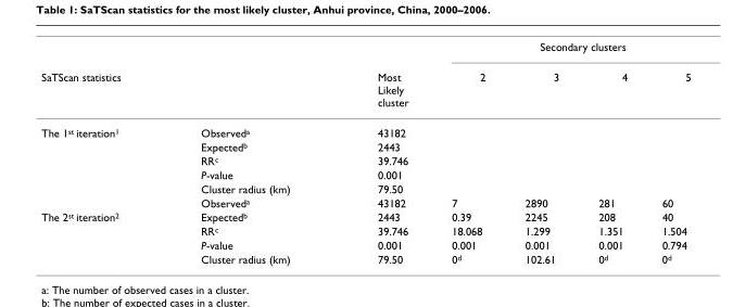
<table><thead><tr><td rowspan="2">SaTScan statistics</td><td rowspan="2"></td><td rowspan="2">Most Likely cluster</td><td colspan="4">Secondary clusters</td></tr><tr><td>2</td><td>3</td><td>4</td><td>5</td></tr></thead><tbody><tr><td rowspan="6">The 1<sup>st</sup> iteration<sup>1</sup></td><td>Observed<sup>a</sup></td><td>43182</td><td></td><td></td><td></td><td></td></tr><tr><td>Expected<sup>b</sup></td><td>2443</td><td></td><td></td><td></td><td></td></tr><tr><td>RR<sup>c</sup></td><td>39.746</td><td></td><td></td><td></td><td></td></tr><tr><td>P-value</td><td>0.001</td><td></td><td></td><td></td><td></td></tr><tr><td>Cluster radius (km)</td><td>79.50</td><td></td><td></td><td></td><td></td></tr><tr><td>Observed<sup>a</sup></td><td>43182</td><td>7</td><td>2890</td><td>281</td><td>60</td></tr><tr><td rowspan="4">The 2<sup>st</sup> iteration<sup>2</sup></td><td>Expected<sup>b</sup></td><td>2443</td><td>0.39</td><td>2245</td><td>208</td><td>40</td></tr><tr><td>RR<sup>c</sup></td><td>39.746</td><td>18.068</td><td>1.299</td><td>1.351</td><td>1.504</td></tr><tr><td>P-value</td><td>0.001</td><td>0.001</td><td>0.001</td><td>0.001</td><td>0.794</td></tr><tr><td>Cluster radius (km)</td><td>79.50</td><td>0<sup>d</sup></td><td>102.61</td><td>0<sup>d</sup></td><td>0<sup>d</sup></td></tr></tbody></table>